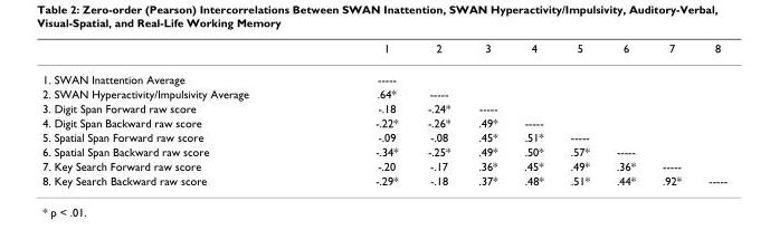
<table><thead><tr><td></td><td>1</td><td>2</td><td>3</td><td>4</td><td>5</td><td>6</td><td>7</td><td>8</td></tr></thead><tbody><tr><td>1. SWAN Inattention Average</td><td>-----</td><td></td><td></td><td></td><td></td><td></td><td></td><td></td></tr><tr><td>2. SWAN Hyperactivity/Impulsivity Average</td><td>.64*</td><td>-----</td><td></td><td></td><td></td><td></td><td></td><td></td></tr><tr><td>3. Digit Span Forward raw score</td><td>-.18</td><td>-.24*</td><td>-----</td><td></td><td></td><td></td><td></td><td></td></tr><tr><td>4. Digit Span Backward raw score</td><td>-.22*</td><td>-.26*</td><td>.49*</td><td>-----</td><td></td><td></td><td></td><td></td></tr><tr><td>5. Spatial Span Forward raw score</td><td>-.09</td><td>-.08</td><td>.45*</td><td>.51*</td><td>-----</td><td></td><td></td><td></td></tr><tr><td>6. Spatial Span Backward raw score</td><td>-.34*</td><td>-.25*</td><td>.49*</td><td>.50*</td><td>.57*</td><td>-----</td><td></td><td></td></tr><tr><td>7. Key Search Forward raw score</td><td>-.20</td><td>-.17</td><td>.36*</td><td>.45*</td><td>.49*</td><td>.36*</td><td>-----</td><td></td></tr><tr><td>8. Key Search Backward raw score</td><td>-.29*</td><td>-.18</td><td>.37*</td><td>.48*</td><td>.51*</td><td>.44*</td><td>.92*</td><td>-----</td></tr></tbody></table>